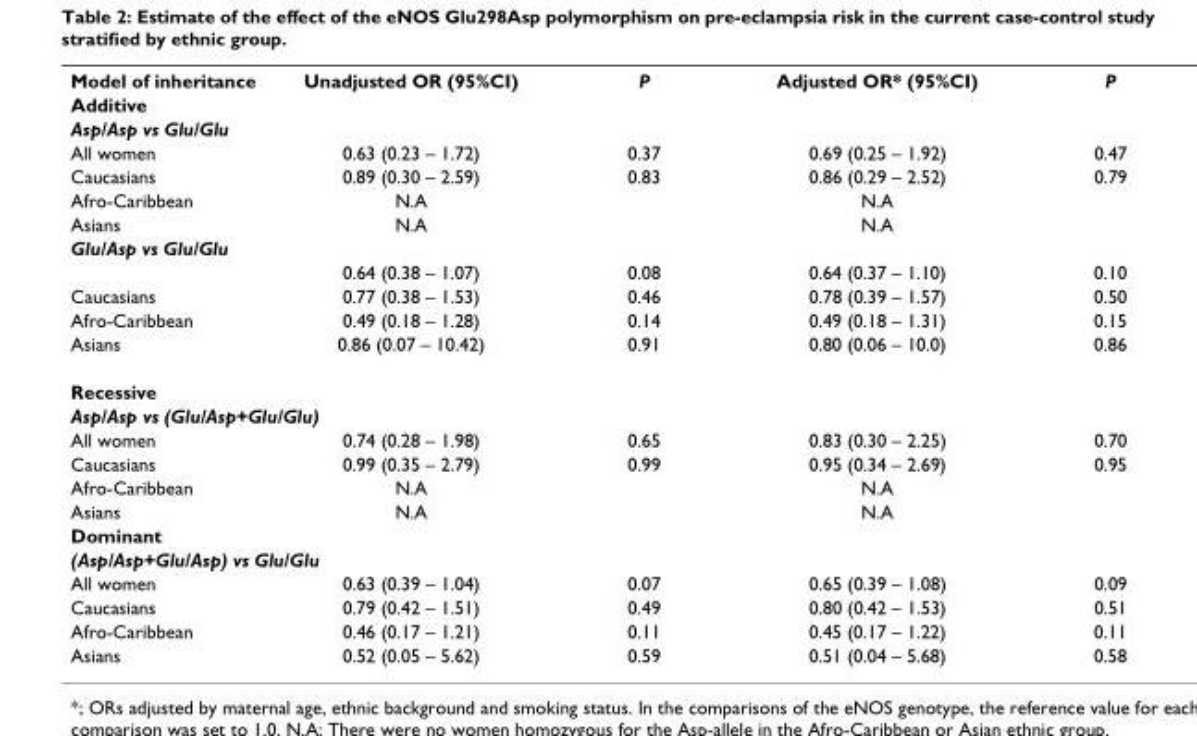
<table><tbody><tr><td>Model of inheritance</td><td>Unadjusted OR (95%CI)</td><td>P</td><td>Adjusted OR* (95%CI)</td><td>P</td></tr><tr><td colspan="5">Additive</td></tr><tr><td colspan="5">Asp/Asp vs Glu/Glu</td></tr><tr><td>All women</td><td>0.63 (0.23 – 1.72)</td><td>0.37</td><td>0.69 (0.25 – 1.92)</td><td>0.47</td></tr><tr><td>Caucasians</td><td>0.89 (0.30 – 2.59)</td><td>0.83</td><td>0.86 (0.29 – 2.52)</td><td>0.79</td></tr><tr><td>Afro-Caribbean</td><td>N.A</td><td></td><td>N.A</td><td></td></tr><tr><td>Asians</td><td>N.A</td><td></td><td>N.A</td><td></td></tr><tr><td colspan="5">Glu/Asp vs Glu/Glu</td></tr><tr><td></td><td>0.64 (0.38 – 1.07)</td><td>0.08</td><td>0.64 (0.37 – 1.10)</td><td>0.10</td></tr><tr><td>Caucasians</td><td>0.77 (0.38 – 1.53)</td><td>0.46</td><td>0.78 (0.39 – 1.57)</td><td>0.50</td></tr><tr><td>Afro-Caribbean</td><td>0.49 (0.18 – 1.28)</td><td>0.14</td><td>0.49 (0.18 – 1.31)</td><td>0.15</td></tr><tr><td>Asians</td><td>0.86 (0.07 – 10.42)</td><td>0.91</td><td>0.80 (0.06 – 10.0)</td><td>0.86</td></tr><tr><td colspan="5">Recessive</td></tr><tr><td colspan="5">Asp/Asp vs (Glu/Asp+Glu/Glu)</td></tr><tr><td>All women</td><td>0.74 (0.28 – 1.98)</td><td>0.65</td><td>0.83 (0.30 – 2.25)</td><td>0.70</td></tr><tr><td>Caucasians</td><td>0.99 (0.35 – 2.79)</td><td>0.99</td><td>0.95 (0.34 – 2.69)</td><td>0.95</td></tr><tr><td>Afro-Caribbean</td><td>N.A</td><td></td><td>N.A</td><td></td></tr><tr><td>Asians</td><td>N.A</td><td></td><td>N.A</td><td></td></tr><tr><td colspan="5">Dominant</td></tr><tr><td colspan="5">(Asp/Asp+Glu/Asp) vs Glu/Glu</td></tr><tr><td>All women</td><td>0.63 (0.39 – 1.04)</td><td>0.07</td><td>0.65 (0.39 – 1.08)</td><td>0.09</td></tr><tr><td>Caucasians</td><td>0.79 (0.42 – 1.51)</td><td>0.49</td><td>0.80 (0.42 – 1.53)</td><td>0.51</td></tr><tr><td>Afro-Caribbean</td><td>0.46 (0.17 – 1.21)</td><td>0.11</td><td>0.45 (0.17 – 1.22)</td><td>0.11</td></tr><tr><td>Asians</td><td>0.52 (0.05 – 5.62)</td><td>0.59</td><td>0.51 (0.04 – 5.68)</td><td>0.58</td></tr></tbody></table>